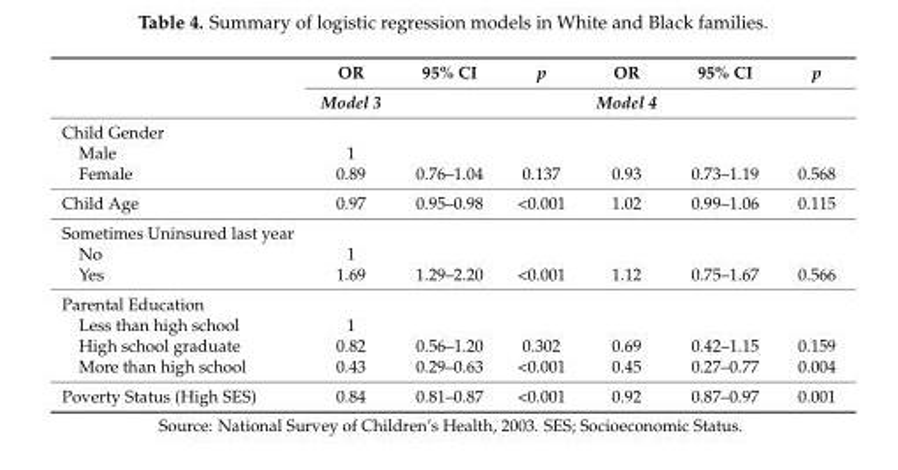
<table><thead><tr><td rowspan="2"></td><td rowspan="2">OR Model 3</td><td rowspan="2">95% CI</td><td rowspan="2">p</td><td rowspan="2">OR Model 4</td><td rowspan="2">95% CI</td><td rowspan="2">p</td></tr><tr></tr></thead><tbody><tr><td colspan="7">Child Gender</td></tr><tr><td>Male</td><td>1</td><td></td><td></td><td></td><td></td><td></td></tr><tr><td>Female</td><td>0.89</td><td>0.76–1.04</td><td>0.137</td><td>0.93</td><td>0.73–1.19</td><td>0.568</td></tr><tr><td>Child Age</td><td>0.97</td><td>0.95–0.98</td><td>&lt;0.001</td><td>1.02</td><td>0.99–1.06</td><td>0.115</td></tr><tr><td colspan="7">Sometimes Uninsured last year</td></tr><tr><td>No</td><td>1</td><td></td><td></td><td></td><td></td><td></td></tr><tr><td>Yes</td><td>1.69</td><td>1.29–2.20</td><td>&lt;0.001</td><td>1.12</td><td>0.75–1.67</td><td>0.566</td></tr><tr><td colspan="7">Parental Education</td></tr><tr><td>Less than high school</td><td>1</td><td></td><td></td><td></td><td></td><td></td></tr><tr><td>High school graduate</td><td>0.82</td><td>0.56–1.20</td><td>0.302</td><td>0.69</td><td>0.42–1.15</td><td>0.159</td></tr><tr><td>More than high school</td><td>0.43</td><td>0.29–0.63</td><td>&lt;0.001</td><td>0.45</td><td>0.27–0.77</td><td>0.004</td></tr><tr><td>Poverty Status (High SES)</td><td>0.84</td><td>0.81–0.87</td><td>&lt;0.001</td><td>0.92</td><td>0.87–0.97</td><td>0.001</td></tr></tbody></table>